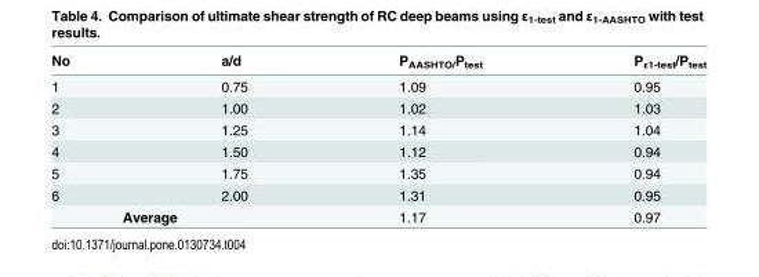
<table><thead><tr><td>No</td><td>a/d</td><td>P<sub>AASHTO/</sub>P<sub>test</sub></td><td>Pε1-test/Ptest</td></tr></thead><tbody><tr><td>1</td><td>0.75</td><td>1.09</td><td>0.95</td></tr><tr><td>2</td><td>1.00</td><td>1.02</td><td>1.03</td></tr><tr><td>3</td><td>1.25</td><td>1.14</td><td>1.04</td></tr><tr><td>4</td><td>1.50</td><td>1.12</td><td>0.94</td></tr><tr><td>5</td><td>1.75</td><td>1.35</td><td>0.94</td></tr><tr><td>6</td><td>2.00</td><td>1.31</td><td>0.95</td></tr><tr><td colspan="2">Average</td><td>1.17</td><td>0.97</td></tr></tbody></table>